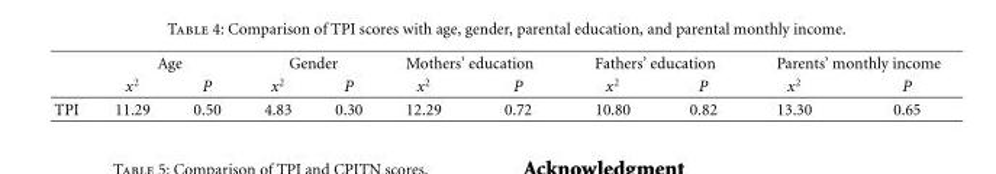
<table><thead><tr><td rowspan="2"></td><td colspan="2">Age</td><td colspan="2">Gender</td><td colspan="2">Mothers’ education</td><td colspan="2">Fathers’ education</td><td colspan="2">Parents’ monthly income</td></tr><tr><td>x<sup>2</sup></td><td>P</td><td>x<sup>2</sup></td><td>P</td><td>x<sup>2</sup></td><td>P</td><td>x<sup>2</sup></td><td>P</td><td>x<sup>2</sup></td><td>P</td></tr></thead><tbody><tr><td>TPI</td><td>11.29</td><td>0.50</td><td>4.83</td><td>0.30</td><td>12.29</td><td>0.72</td><td>10.80</td><td>0.82</td><td>13.30</td><td>0.65</td></tr></tbody></table>